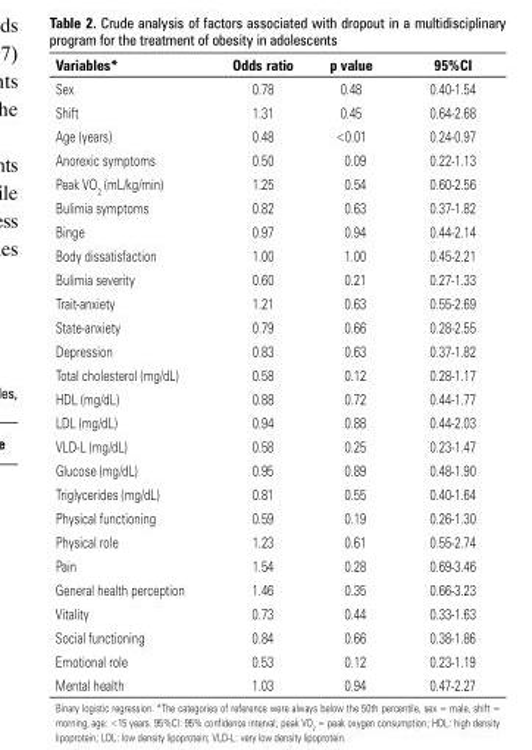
<table><thead><tr><td>Variables*</td><td>odds ratio</td><td>p value</td><td>95%ci</td></tr></thead><tbody><tr><td>Sex</td><td>0.78</td><td>0.48</td><td>0.40-1.54</td></tr><tr><td>Shift</td><td>1.31</td><td>0.45</td><td>0.64-2.68</td></tr><tr><td>Age (years)</td><td>0.48</td><td>&lt;0.01</td><td>0.24-0.97</td></tr><tr><td>Anorexic symptoms</td><td>0.50</td><td>0.09</td><td>0.22-1.13</td></tr><tr><td>Peak VO<sub>2</sub> (mL/kg/min)</td><td>1.25</td><td>0.54</td><td>0.60-2.56</td></tr><tr><td>Bulimia symptoms</td><td>0.82</td><td>0.63</td><td>0.37-1.82</td></tr><tr><td>Binge</td><td>0.97</td><td>0.94</td><td>0.44-2.14</td></tr><tr><td>Body dissatisfaction</td><td>1.00</td><td>1.00</td><td>0.45-2.21</td></tr><tr><td>Bulimia severity</td><td>0.60</td><td>0.21</td><td>0.27-1.33</td></tr><tr><td>Trait-anxiety</td><td>1.21</td><td>0.63</td><td>0.55-2.69</td></tr><tr><td>State-anxiety</td><td>0.79</td><td>0.66</td><td>0.28-2.55</td></tr><tr><td>Depression</td><td>0.83</td><td>0.63</td><td>0.37-1.82</td></tr><tr><td>Total cholesterol (mg/dL)</td><td>0.58</td><td>0.12</td><td>0.28-1.17</td></tr><tr><td>HDL (mg/dL)</td><td>0.88</td><td>0.72</td><td>0.44-1.77</td></tr><tr><td>LDL (mg/dL)</td><td>0.94</td><td>0.88</td><td>0.44-2.03</td></tr><tr><td>VLD-L (mg/dL)</td><td>0.58</td><td>0.25</td><td>0.23-1.47</td></tr><tr><td>Glucose (mg/dL)</td><td>0.95</td><td>0.89</td><td>0.48-1.90</td></tr><tr><td>Triglycerides (mg/dL)</td><td>0.81</td><td>0.55</td><td>0.40-1.64</td></tr><tr><td>Physical functioning</td><td>0.59</td><td>0.19</td><td>0.26-1.30</td></tr><tr><td>Physical role</td><td>1.23</td><td>0.61</td><td>0.55-2.74</td></tr><tr><td>Pain</td><td>1.54</td><td>0.28</td><td>0.69-3.46</td></tr><tr><td>General health perception</td><td>1.46</td><td>0.35</td><td>0.66-3.23</td></tr><tr><td>Vitality</td><td>0.73</td><td>0.44</td><td>0.33-1.63</td></tr><tr><td>Social functioning</td><td>0.84</td><td>0.66</td><td>0.38-1.86</td></tr><tr><td>Emotional role</td><td>0.53</td><td>0.12</td><td>0.23-1.19</td></tr><tr><td>Mental health</td><td>1.03</td><td>0.94</td><td>0.47-2.27</td></tr></tbody></table>